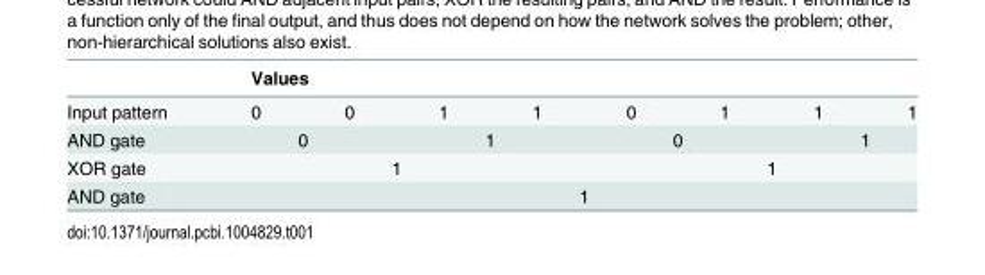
<table><thead><tr><td rowspan="2">Input pattern</td><td colspan="8">Values</td></tr><tr><td>0</td><td>0</td><td>1</td><td>1</td><td>0</td><td>1</td><td>1</td><td>1</td></tr></thead><tbody><tr><td>AND gate</td><td colspan="2">0</td><td colspan="2">1</td><td colspan="2">0</td><td colspan="2">1</td></tr><tr><td>XOR gate</td><td colspan="4">1</td><td colspan="4">1</td></tr><tr><td>AND gate</td><td colspan="8">1</td></tr></tbody></table>